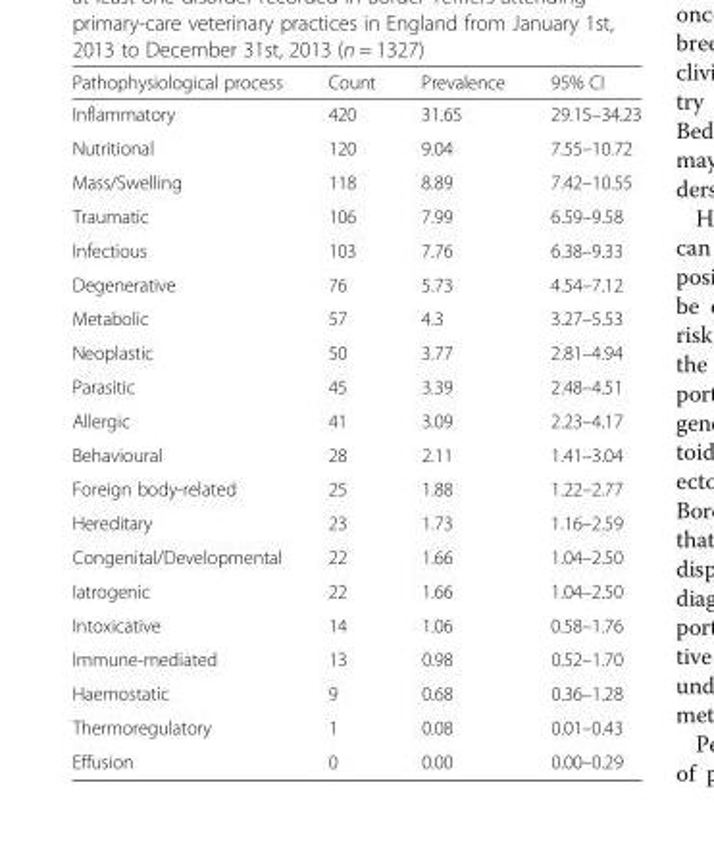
<table><thead><tr><td>Pathophysiological process</td><td>Count</td><td>Prevalence</td><td>95% CI</td></tr></thead><tbody><tr><td>Inflammatory</td><td>420</td><td>31.65</td><td>29.15–34.23</td></tr><tr><td>Nutritional</td><td>120</td><td>9.04</td><td>7.55–10.72</td></tr><tr><td>Mass/Swelling</td><td>118</td><td>8.89</td><td>7.42–10.55</td></tr><tr><td>Traumatic</td><td>106</td><td>7.99</td><td>6.59–9.58</td></tr><tr><td>Infectious</td><td>103</td><td>7.76</td><td>6.38–9.33</td></tr><tr><td>Degenerative</td><td>76</td><td>5.73</td><td>4.54–7.12</td></tr><tr><td>Metabolic</td><td>57</td><td>4.3</td><td>3.27–5.53</td></tr><tr><td>Neoplastic</td><td>50</td><td>3.77</td><td>2.81–4.94</td></tr><tr><td>Parasitic</td><td>45</td><td>3.39</td><td>2.48–4.51</td></tr><tr><td>Allergic</td><td>41</td><td>3.09</td><td>2.23–4.17</td></tr><tr><td>Behavioural</td><td>28</td><td>2.11</td><td>1.41–3.04</td></tr><tr><td>Foreign body-related</td><td>25</td><td>1.88</td><td>1.22–2.77</td></tr><tr><td>Hereditary</td><td>23</td><td>1.73</td><td>1.16–2.59</td></tr><tr><td>Congenital/Developmental</td><td>22</td><td>1.66</td><td>1.04–2.50</td></tr><tr><td>Iatrogenic</td><td>22</td><td>1.66</td><td>1.04–2.50</td></tr><tr><td>Intoxicative</td><td>14</td><td>1.06</td><td>0.58–1.76</td></tr><tr><td>Immune-mediated</td><td>13</td><td>0.98</td><td>0.52–1.70</td></tr><tr><td>Haemostatic</td><td>9</td><td>0.68</td><td>0.36–1.28</td></tr><tr><td>Thermoregulatory</td><td>1</td><td>0.08</td><td>0.01–0.43</td></tr><tr><td>Effusion</td><td>0</td><td>0.00</td><td>0.00–0.29</td></tr></tbody></table>